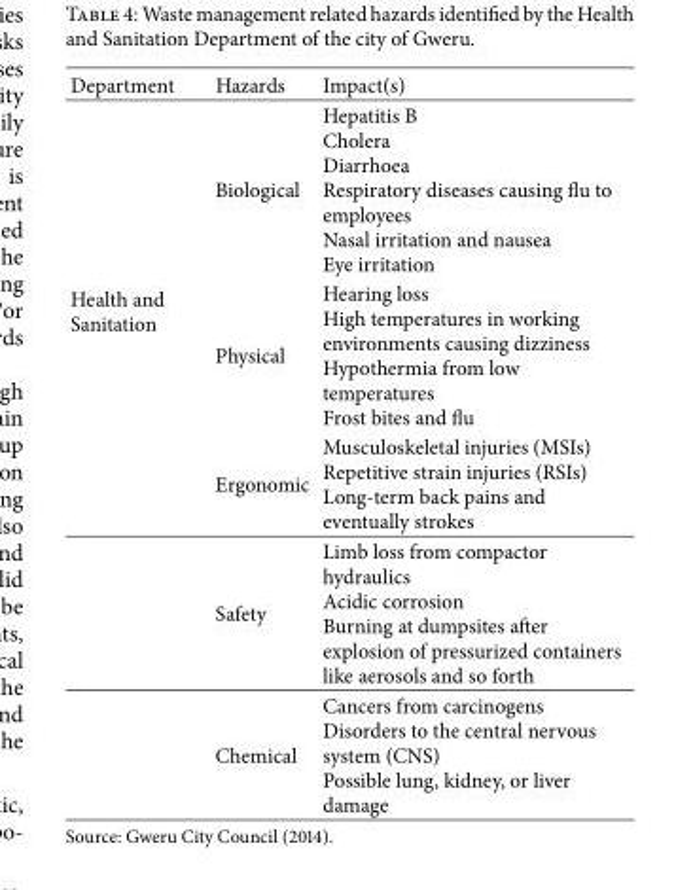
<table><thead><tr><td>Department</td><td>Hazards</td><td>Impact(s)</td></tr></thead><tbody><tr><td rowspan="5">Health and Sanitation</td><td>Biological</td><td>Hepatitis B Cholera Diarrhoea Respiratory diseases causing flu to employees Nasal irritation and nausea Eye irritation</td></tr><tr><td>Physical</td><td>Hearing loss High temperatures in working environments causing dizziness Hypothermia from low temperatures Frost bites and flu</td></tr><tr><td>Ergonomic</td><td>Musculoskeletal injuries (MSIs) Repetitive strain injuries (RSIs) Long-term back pains and eventually strokes</td></tr><tr><td>Safety</td><td>Limb loss from compactor hydraulics Acidic corrosion Burning at dumpsites after explosion of pressurized containers like aerosols and so forth</td></tr><tr><td>Chemical</td><td>Cancers from carcinogens Disorders to the central nervous system (CNS) Possible lung, kidney, or liver damage</td></tr></tbody></table>